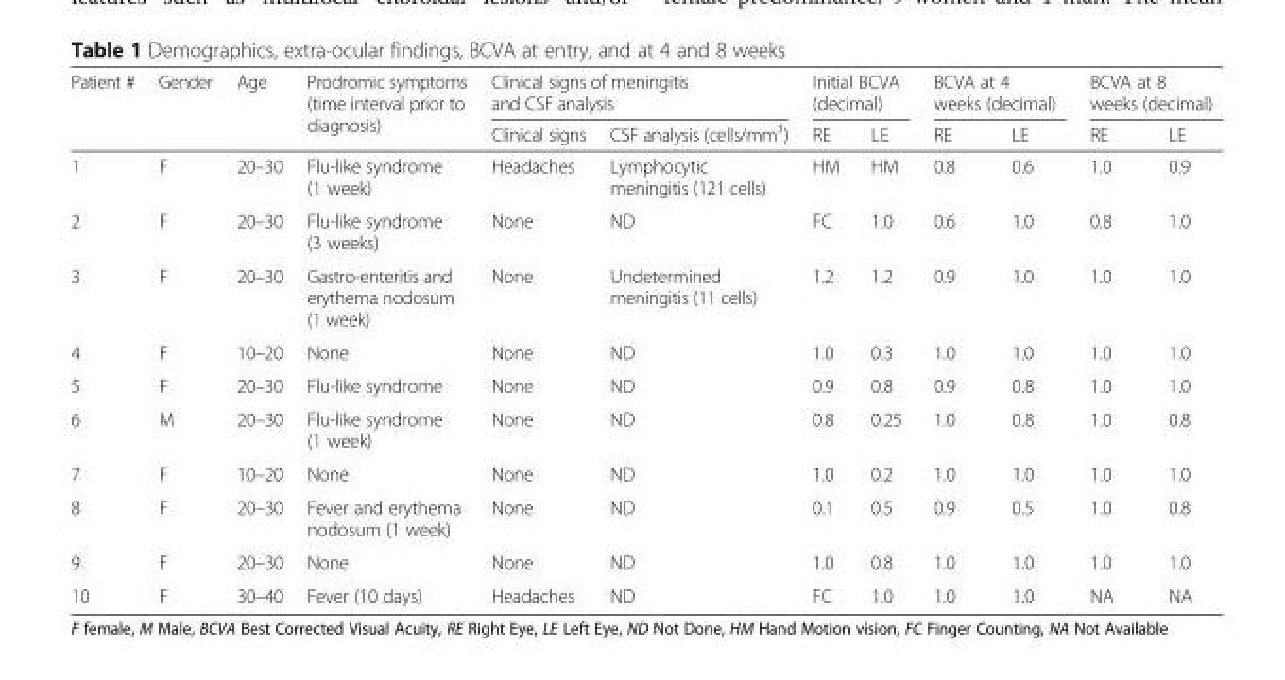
<table><thead><tr><td rowspan="2">Patient #</td><td rowspan="2">Gender</td><td rowspan="2">Age</td><td rowspan="2">Prodromic symptoms (time interval prior to diagnosis)</td><td colspan="2">Clinical signs of meningitis and CSF analysis</td><td colspan="2">Initial BCVA (decimal)</td><td colspan="2">BCVA at 4 weeks (decimal)</td><td colspan="2">BCVA at 8 weeks (decimal)</td></tr><tr><td>Clinical signs</td><td>CSF analysis (cells/mm<sup>3</sup>)</td><td>RE</td><td>LE</td><td>RE</td><td>LE</td><td>RE</td><td>LE</td></tr></thead><tbody><tr><td>1</td><td>F</td><td>20–30</td><td>Flu-like syndrome (1 week)</td><td>Headaches</td><td>Lymphocytic meningitis (121 cells)</td><td>HM</td><td>HM</td><td>0.8</td><td>0.6</td><td>1.0</td><td>0.9</td></tr><tr><td>2</td><td>F</td><td>20–30</td><td>Flu-like syndrome (3 weeks)</td><td>None</td><td>ND</td><td>FC</td><td>1.0</td><td>0.6</td><td>1.0</td><td>0.8</td><td>1.0</td></tr><tr><td>3</td><td>F</td><td>20–30</td><td>Gastro-enteritis and erythema nodosum (1 week)</td><td>None</td><td>Undetermined meningitis (11 cells)</td><td>1.2</td><td>1.2</td><td>0.9</td><td>1.0</td><td>1.0</td><td>1.0</td></tr><tr><td>4</td><td>F</td><td>10–20</td><td>None</td><td>None</td><td>ND</td><td>1.0</td><td>0.3</td><td>1.0</td><td>1.0</td><td>1.0</td><td>1.0</td></tr><tr><td>5</td><td>F</td><td>20–30</td><td>Flu-like syndrome</td><td>None</td><td>ND</td><td>0.9</td><td>0.8</td><td>0.9</td><td>0.8</td><td>1.0</td><td>1.0</td></tr><tr><td>6</td><td>M</td><td>20–30</td><td>Flu-like syndrome (1 week)</td><td>None</td><td>ND</td><td>0.8</td><td>0.25</td><td>1.0</td><td>0.8</td><td>1.0</td><td>0.8</td></tr><tr><td>7</td><td>F</td><td>10–20</td><td>None</td><td>None</td><td>ND</td><td>1.0</td><td>0.2</td><td>1.0</td><td>1.0</td><td>1.0</td><td>1.0</td></tr><tr><td>8</td><td>F</td><td>20–30</td><td>Fever and erythema nodosum (1 week)</td><td>None</td><td>ND</td><td>0.1</td><td>0.5</td><td>0.9</td><td>0.5</td><td>1.0</td><td>0.8</td></tr><tr><td>9</td><td>F</td><td>20–30</td><td>None</td><td>None</td><td>ND</td><td>1.0</td><td>0.8</td><td>1.0</td><td>1.0</td><td>1.0</td><td>1.0</td></tr><tr><td>10</td><td>F</td><td>30–40</td><td>Fever (10 days)</td><td>Headaches</td><td>ND</td><td>FC</td><td>1.0</td><td>1.0</td><td>1.0</td><td>NA</td><td>NA</td></tr></tbody></table>